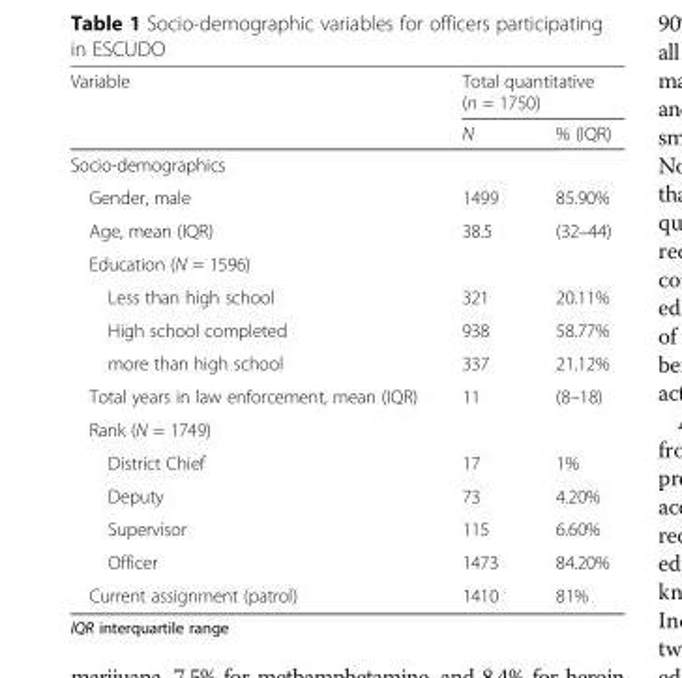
<table><thead><tr><td rowspan="2">Variable</td><td colspan="2">Total quantitative (n = 1750)</td></tr><tr><td>N</td><td>% (IQR)</td></tr></thead><tbody><tr><td colspan="3">Socio-demographics</td></tr><tr><td>Gender, male</td><td>1499</td><td>85.90%</td></tr><tr><td>Age, mean (IQR)</td><td>38.5</td><td>(32–44)</td></tr><tr><td colspan="3">Education (N = 1596)</td></tr><tr><td>Less than high school</td><td>321</td><td>20.11%</td></tr><tr><td>High school completed</td><td>938</td><td>58.77%</td></tr><tr><td>more than high school</td><td>337</td><td>21.12%</td></tr><tr><td>Total years in law enforcement, mean (IQR)</td><td>11</td><td>(8–18)</td></tr><tr><td colspan="3">Rank (N = 1749)</td></tr><tr><td>District Chief</td><td>17</td><td>1%</td></tr><tr><td>Deputy</td><td>73</td><td>4.20%</td></tr><tr><td>Supervisor</td><td>115</td><td>6.60%</td></tr><tr><td>Officer</td><td>1473</td><td>84.20%</td></tr><tr><td>Current assignment (patrol)</td><td>1410</td><td>81%</td></tr></tbody></table>